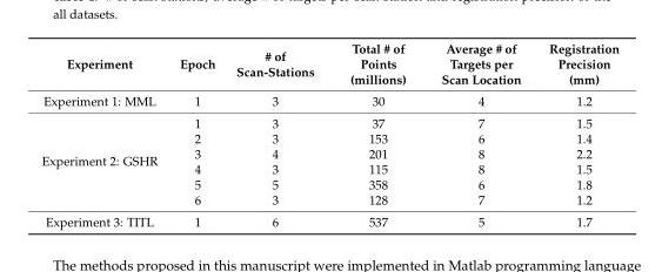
<table><thead><tr><td>Experiment</td><td>Epoch</td><td># of Scan-Stations</td><td>Total # of Points (millions)</td><td>Average # of Targets per Scan Location</td><td>Registration Precision (mm)</td></tr></thead><tbody><tr><td>Experiment 1: MML</td><td>1</td><td>3</td><td>30</td><td>4</td><td>1.2</td></tr><tr><td rowspan="6">Experiment 2: GSHR</td><td>1</td><td>3</td><td>37</td><td>7</td><td>1.5</td></tr><tr><td>2</td><td>3</td><td>153</td><td>6</td><td>1.4</td></tr><tr><td>3</td><td>4</td><td>201</td><td>8</td><td>2.2</td></tr><tr><td>4</td><td>3</td><td>115</td><td>8</td><td>1.5</td></tr><tr><td>5</td><td>5</td><td>358</td><td>6</td><td>1.8</td></tr><tr><td>6</td><td>3</td><td>128</td><td>7</td><td>1.2</td></tr><tr><td>Experiment 3: TITL</td><td>1</td><td>6</td><td>537</td><td>5</td><td>1.7</td></tr></tbody></table>